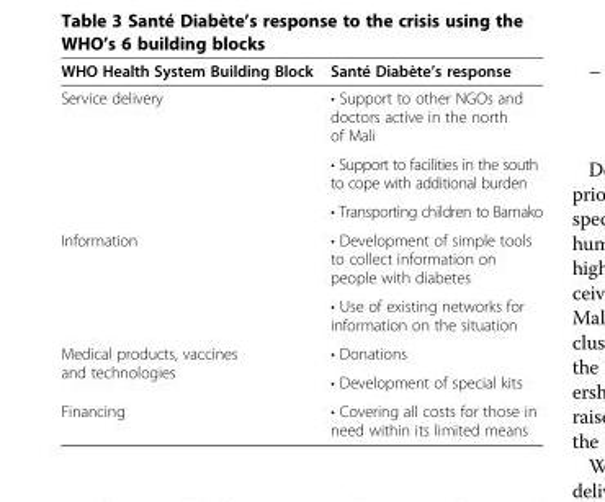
<table><thead><tr><td>WHO Health System Building Block</td><td>Santé Diabète’s response</td></tr></thead><tbody><tr><td rowspan="3">Service delivery</td><td>• Support to other NGOs and doctors active in the north of Mali</td></tr><tr><td>• Support to facilities in the south to cope with additional burden</td></tr><tr><td>• Transporting children to Bamako</td></tr><tr><td rowspan="2">Information</td><td>• Development of simple tools to collect information on people with diabetes</td></tr><tr><td>• Use of existing networks for information on the situation</td></tr><tr><td rowspan="2">Medical products, vaccines and technologies</td><td>• Donations</td></tr><tr><td>• Development of special kits</td></tr><tr><td>Financing</td><td>• Covering all costs for those in need within its limited means</td></tr></tbody></table>